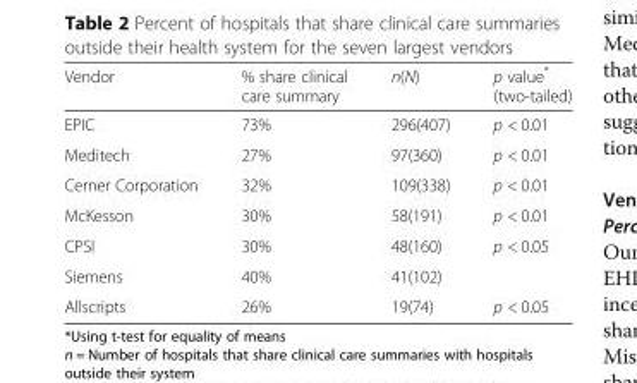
<table><thead><tr><td>Vendor</td><td>% share clinical care summary</td><td>n(N)</td><td>p value* (two-tailed)</td></tr></thead><tbody><tr><td>EPIC</td><td>73%</td><td>296(407)</td><td>p &lt; 0.01</td></tr><tr><td>Meditech</td><td>27%</td><td>97(360)</td><td>p &lt; 0.01</td></tr><tr><td>Cerner Corporation</td><td>32%</td><td>109(338)</td><td>p &lt; 0.01</td></tr><tr><td>McKesson</td><td>30%</td><td>58(191)</td><td>p &lt; 0.01</td></tr><tr><td>CPSI</td><td>30%</td><td>48(160)</td><td>p &lt; 0.05</td></tr><tr><td>Siemens</td><td>40%</td><td>41(102)</td><td></td></tr><tr><td>Allscripts</td><td>26%</td><td>19(74)</td><td>p &lt; 0.05</td></tr></tbody></table>